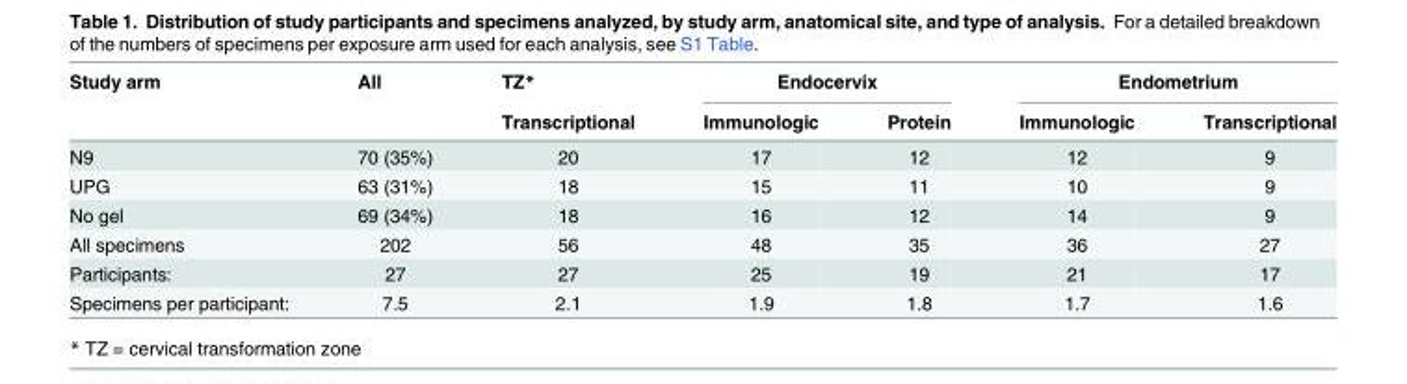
<table><thead><tr><td rowspan="2">Study arm</td><td rowspan="2">All</td><td rowspan="2">TZ* Transcriptional</td><td colspan="2">Endocervix</td><td colspan="2">Endometrium</td></tr><tr><td>Immunologic</td><td>Protein</td><td>Immunologic</td><td>Transcriptional</td></tr></thead><tbody><tr><td>N9</td><td>70 (35%)</td><td>20</td><td>17</td><td>12</td><td>12</td><td>9</td></tr><tr><td>UPG</td><td>63 (31%)</td><td>18</td><td>15</td><td>11</td><td>10</td><td>9</td></tr><tr><td>No gel</td><td>69 (34%)</td><td>18</td><td>16</td><td>12</td><td>14</td><td>9</td></tr><tr><td>All specimens</td><td>202</td><td>56</td><td>48</td><td>35</td><td>36</td><td>27</td></tr><tr><td>Participants:</td><td>27</td><td>27</td><td>25</td><td>19</td><td>21</td><td>17</td></tr><tr><td>Specimens per participant:</td><td>7.5</td><td>2.1</td><td>1.9</td><td>1.8</td><td>1.7</td><td>1.6</td></tr></tbody></table>